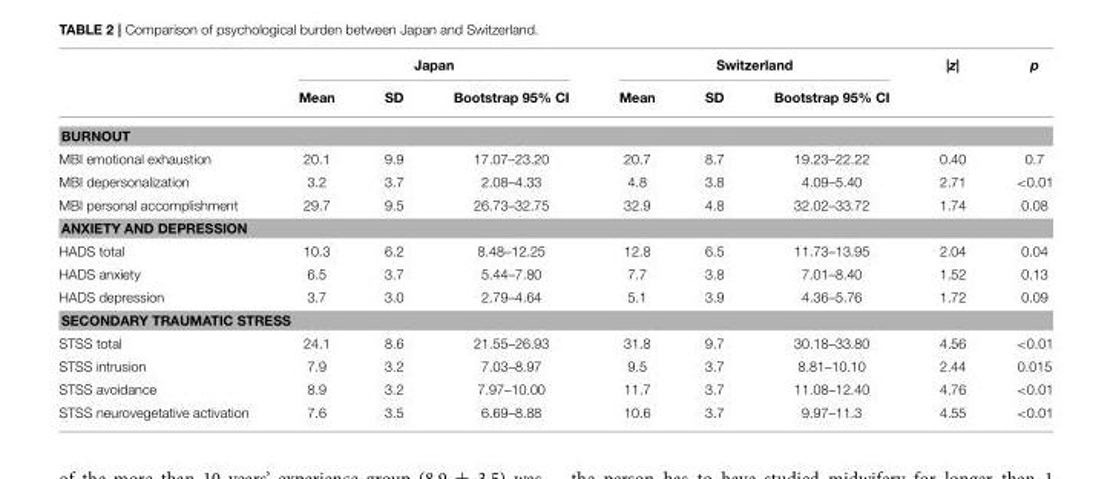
<table><thead><tr><td rowspan="2"></td><td colspan="3">Japan</td><td colspan="3">Switzerland</td><td rowspan="2">|z|</td><td rowspan="2">p</td></tr><tr><td>Mean</td><td>SD</td><td>Bootstrap 95% CI</td><td>Mean</td><td>SD</td><td>Bootstrap 95% CI</td></tr></thead><tbody><tr><td colspan="9">BURNOUT</td></tr><tr><td>MBI emotional exhaustion</td><td>20.1</td><td>9.9</td><td>17.07–23.20</td><td>20.7</td><td>8.7</td><td>19.23–22.22</td><td>0.40</td><td>0.7</td></tr><tr><td>MBI depersonalization</td><td>3.2</td><td>3.7</td><td>2.08–4.33</td><td>4.8</td><td>3.8</td><td>4.09–5.40</td><td>2.71</td><td>&lt;0.01</td></tr><tr><td>MBI personal accomplishment</td><td>29.7</td><td>9.5</td><td>26.73–32.75</td><td>32.9</td><td>4.8</td><td>32.02–33.72</td><td>1.74</td><td>0.08</td></tr><tr><td colspan="9">ANXIETY AND DEPRESSION</td></tr><tr><td>HADS total</td><td>10.3</td><td>6.2</td><td>8.48–12.25</td><td>12.8</td><td>6.5</td><td>11.73–13.95</td><td>2.04</td><td>0.04</td></tr><tr><td>HADS anxiety</td><td>6.5</td><td>3.7</td><td>5.44–7.80</td><td>7.7</td><td>3.8</td><td>7.01–8.40</td><td>1.52</td><td>0.13</td></tr><tr><td>HADS depression</td><td>3.7</td><td>3.0</td><td>2.79–4.64</td><td>5.1</td><td>3.9</td><td>4.36–5.76</td><td>1.72</td><td>0.09</td></tr><tr><td colspan="9">SECONDARY TRAUMATIC STRESS</td></tr><tr><td>STSS total</td><td>24.1</td><td>8.6</td><td>21.55–26.93</td><td>31.8</td><td>9.7</td><td>30.18–33.80</td><td>4.56</td><td>&lt;0.01</td></tr><tr><td>STSS intrusion</td><td>7.9</td><td>3.2</td><td>7.03–8.97</td><td>9.5</td><td>3.7</td><td>8.81–10.10</td><td>2.44</td><td>0.015</td></tr><tr><td>STSS avoidance</td><td>8.9</td><td>3.2</td><td>7.97–10.00</td><td>11.7</td><td>3.7</td><td>11.08–12.40</td><td>4.76</td><td>&lt;0.01</td></tr><tr><td>STSS neurovegetative activation</td><td>7.6</td><td>3.5</td><td>6.69–8.88</td><td>10.6</td><td>3.7</td><td>9.97–11.3</td><td>4.55</td><td>&lt;0.01</td></tr></tbody></table>